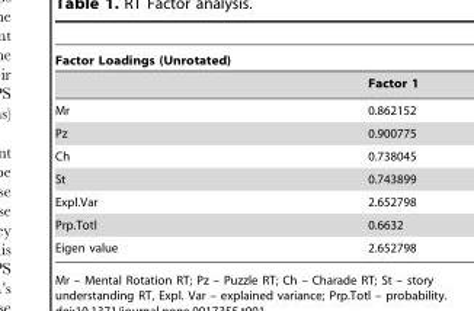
<table><thead><tr><td rowspan="2">Factor Loadings (Unrotated)</td><td rowspan="2">Factor 1</td></tr><tr></tr></thead><tbody><tr><td>Mr</td><td>0.862152</td></tr><tr><td>Pz</td><td>0.900775</td></tr><tr><td>Ch</td><td>0.738045</td></tr><tr><td>St</td><td>0.743899</td></tr><tr><td>Expl.Var</td><td>2.652798</td></tr><tr><td>Prp.Totl</td><td>0.6632</td></tr><tr><td>Eigen value</td><td>2.652798</td></tr></tbody></table>